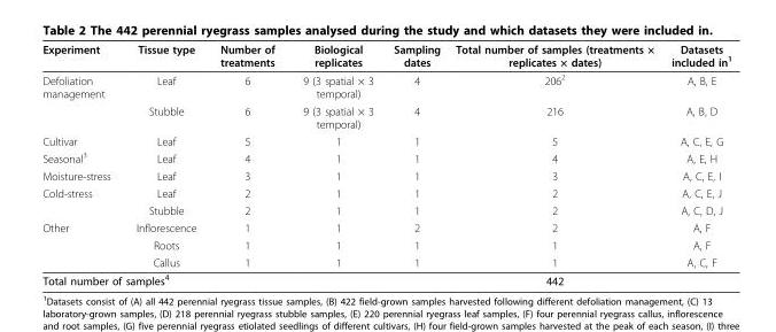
<table><thead><tr><td>Experiment</td><td>Tissue type</td><td>Number of treatments</td><td>Biological replicates</td><td>Sampling dates</td><td>Total number of samples (treatments × replicates × dates)</td><td>Datasets included in<sup>1</sup></td></tr></thead><tbody><tr><td rowspan="2">Defoliation management</td><td>Leaf</td><td>6</td><td>9 (3 spatial × 3 temporal)</td><td>4</td><td>206<sup>2</sup></td><td>A, B, E</td></tr><tr><td>Stubble</td><td>6</td><td>9 (3 spatial × 3 temporal)</td><td>4</td><td>216</td><td>A, B, D</td></tr><tr><td>Cultivar</td><td>Leaf</td><td>5</td><td>1</td><td>1</td><td>5</td><td>A, C, E, G</td></tr><tr><td>Seasonal<sup>3</sup></td><td>Leaf</td><td>4</td><td>1</td><td>1</td><td>4</td><td>A, E, H</td></tr><tr><td>Moisture-stress</td><td>Leaf</td><td>3</td><td>1</td><td>1</td><td>3</td><td>A, C, E, I</td></tr><tr><td rowspan="2">Cold-stress</td><td>Leaf</td><td>2</td><td>1</td><td>1</td><td>2</td><td>A, C, E, J</td></tr><tr><td>Stubble</td><td>2</td><td>1</td><td>1</td><td>2</td><td>A, C, D, J</td></tr><tr><td rowspan="3">Other</td><td>Inflorescence</td><td>1</td><td>1</td><td>2</td><td>2</td><td>A, F</td></tr><tr><td>Roots</td><td>1</td><td>1</td><td>1</td><td>1</td><td>A, F</td></tr><tr><td>Callus</td><td>1</td><td>1</td><td>1</td><td>1</td><td>A, C, F</td></tr><tr><td colspan="2">Total number of samples<sup>4</sup></td><td></td><td></td><td></td><td>442</td><td></td></tr></tbody></table>